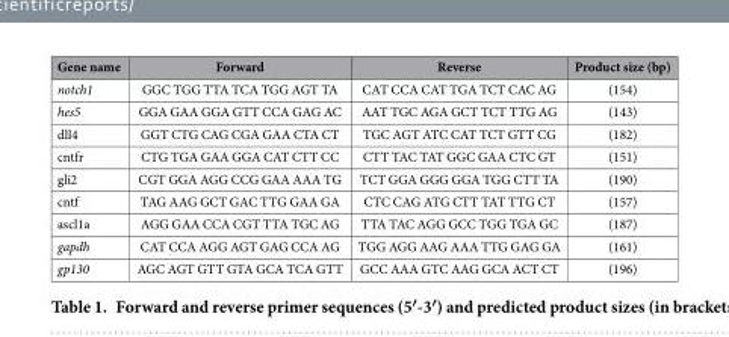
<table><thead><tr><td>Gene name</td><td>Forward</td><td>Reverse</td><td>Product size (bp)</td></tr></thead><tbody><tr><td>notch1</td><td>GGC TGG TTA TCA TGG AGT TA</td><td>CAT CCA CAT TGA TCT CAC AG</td><td>(154)</td></tr><tr><td>hes5</td><td>GGA GAA GGA GTT CCA GAG AC</td><td>AAT TGC AGA GCT TCT TTG AG</td><td>(143)</td></tr><tr><td>dll4</td><td>GGT CTG CAG CGA GAA CTA CT</td><td>TGC AGT ATC CAT TCT GTT CG</td><td>(182)</td></tr><tr><td>cntfr</td><td>CTG TGA GAA GGA CAT CTT CC</td><td>CTT TAC TAT GGC GAA CTC GT</td><td>(151)</td></tr><tr><td>gli2</td><td>CGT GGA AGG CCG GAA AAA TG</td><td>TCT GGA GGG GGA TGG CTT TA</td><td>(190)</td></tr><tr><td>cntf</td><td>TAG AAG GCT GAC TTG GAA GA</td><td>CTC CAG ATG CTT TAT TTG CT</td><td>(157)</td></tr><tr><td>ascl1a</td><td>AGG GAA CCA CGT TTA TGC AG</td><td>TTA TAC AGG GCC TGG TGA GC</td><td>(187)</td></tr><tr><td>gapdh</td><td>CAT CCA AGG AGT GAG CCA AG</td><td>TGG AGG AAG AAA TTG GAG GA</td><td>(161)</td></tr><tr><td>gp130</td><td>AGC AGT GTT GTA GCA TCA GTT</td><td>GCC AAA GTC AAG GCA ACT CT</td><td>(196)</td></tr></tbody></table>